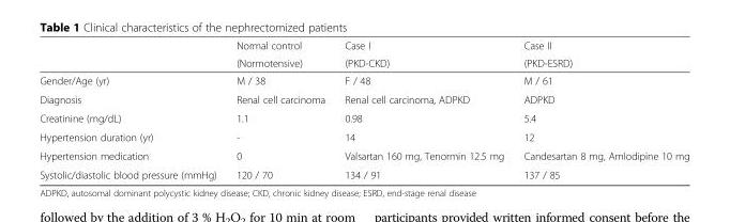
<table><thead><tr><td rowspan="2"></td><td rowspan="2">Normal control (Normotensive)</td><td rowspan="2">Case I (PKD-CKD)</td><td rowspan="2">Case II (PKD-ESRD)</td></tr><tr></tr></thead><tbody><tr><td>Gender/Age (yr)</td><td>M / 38</td><td>F / 48</td><td>M / 61</td></tr><tr><td>Diagnosis</td><td>Renal cell carcinoma</td><td>Renal cell carcinoma, ADPKD</td><td>ADPKD</td></tr><tr><td>Creatinine (mg/dL)</td><td>1.1</td><td>0.98</td><td>5.4</td></tr><tr><td>Hypertension duration (yr)</td><td>-</td><td>14</td><td>12</td></tr><tr><td>Hypertension medication</td><td>0</td><td>Valsartan 160 mg, Tenormin 12.5 mg</td><td>Candesartan 8 mg, Amlodipine 10 mg</td></tr><tr><td>Systolic/diastolic blood pressure (mmHg)</td><td>120 / 70</td><td>134 / 91</td><td>137 / 85</td></tr></tbody></table>